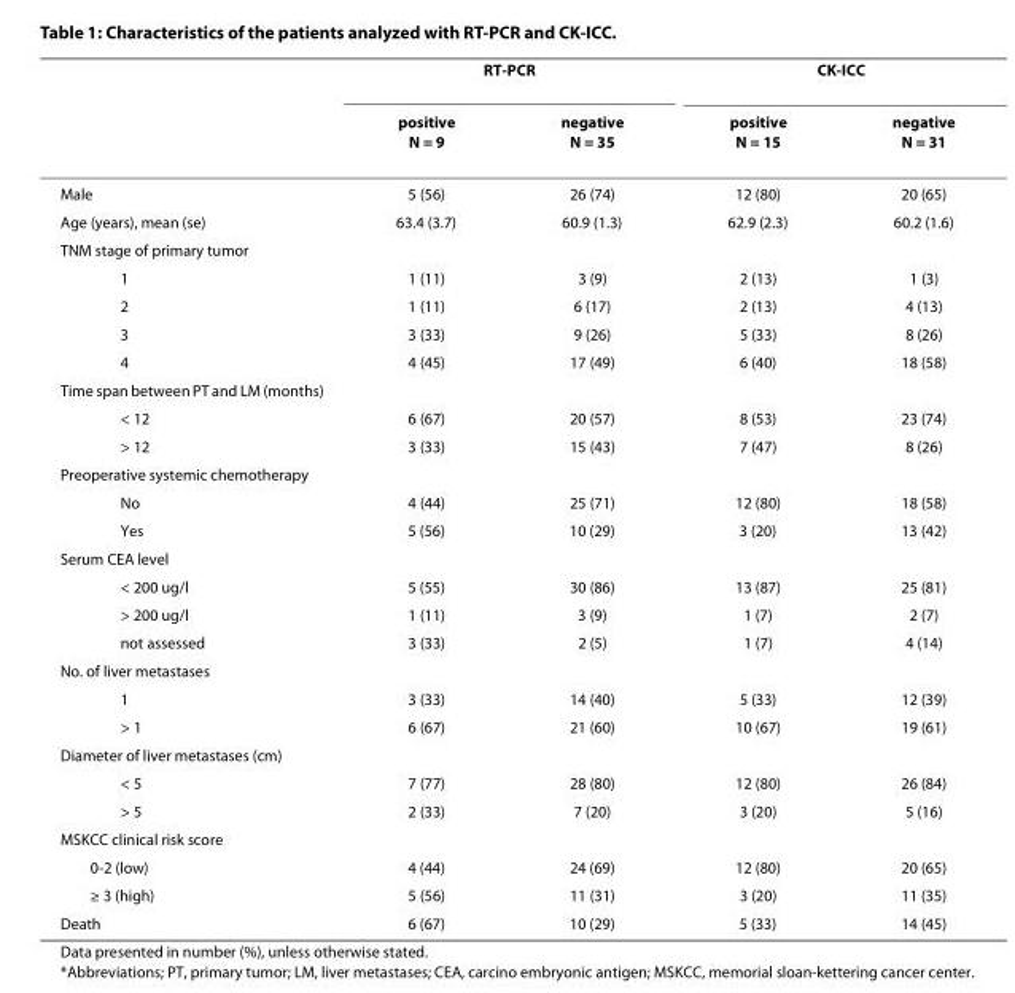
<table><thead><tr><td rowspan="2"></td><td colspan="2">RT-PCR</td><td colspan="2">CK-ICC</td></tr><tr><td>positive N = 9</td><td>negative N = 35</td><td>positive N = 15</td><td>negative N = 31</td></tr></thead><tbody><tr><td>Male</td><td>5 (56)</td><td>26 (74)</td><td>12 (80)</td><td>20 (65)</td></tr><tr><td>Age (years), mean (se)</td><td>63.4 (3.7)</td><td>60.9 (1.3)</td><td>62.9 (2.3)</td><td>60.2 (1.6)</td></tr><tr><td colspan="5">TNM stage of primary tumor</td></tr><tr><td>1</td><td>1 (11)</td><td>3 (9)</td><td>2 (13)</td><td>1 (3)</td></tr><tr><td>2</td><td>1 (11)</td><td>6 (17)</td><td>2 (13)</td><td>4 (13)</td></tr><tr><td>3</td><td>3 (33)</td><td>9 (26)</td><td>5 (33)</td><td>8 (26)</td></tr><tr><td>4</td><td>4 (45)</td><td>17 (49)</td><td>6 (40)</td><td>18 (58)</td></tr><tr><td colspan="5">Time span between PT and LM (months)</td></tr><tr><td>&lt; 12</td><td>6 (67)</td><td>20 (57)</td><td>8 (53)</td><td>23 (74)</td></tr><tr><td>&gt; 12</td><td>3 (33)</td><td>15 (43)</td><td>7 (47)</td><td>8 (26)</td></tr><tr><td colspan="5">Preoperative systemic chemotherapy</td></tr><tr><td>No</td><td>4 (44)</td><td>25 (71)</td><td>12 (80)</td><td>18 (58)</td></tr><tr><td>Yes</td><td>5 (56)</td><td>10 (29)</td><td>3 (20)</td><td>13 (42)</td></tr><tr><td colspan="5">Serum CEA level</td></tr><tr><td>&lt; 200 ug/l</td><td>5 (55)</td><td>30 (86)</td><td>13 (87)</td><td>25 (81)</td></tr><tr><td>&gt; 200 ug/l</td><td>1 (11)</td><td>3 (9)</td><td>1 (7)</td><td>2 (7)</td></tr><tr><td>not assessed</td><td>3 (33)</td><td>2 (5)</td><td>1 (7)</td><td>4 (14)</td></tr><tr><td colspan="5">No. of liver metastases</td></tr><tr><td>1</td><td>3 (33)</td><td>14 (40)</td><td>5 (33)</td><td>12 (39)</td></tr><tr><td>&gt; 1</td><td>6 (67)</td><td>21 (60)</td><td>10 (67)</td><td>19 (61)</td></tr><tr><td colspan="5">Diameter of liver metastases (cm)</td></tr><tr><td>&lt; 5</td><td>7 (77)</td><td>28 (80)</td><td>12 (80)</td><td>26 (84)</td></tr><tr><td>&gt; 5</td><td>2 (33)</td><td>7 (20)</td><td>3 (20)</td><td>5 (16)</td></tr><tr><td colspan="5">MSKCC clinical risk score</td></tr><tr><td>0-2 (low)</td><td>4 (44)</td><td>24 (69)</td><td>12 (80)</td><td>20 (65)</td></tr><tr><td>≥ 3 (high)</td><td>5 (56)</td><td>11 (31)</td><td>3 (20)</td><td>11 (35)</td></tr><tr><td>Death</td><td>6 (67)</td><td>10 (29)</td><td>5 (33)</td><td>14 (45)</td></tr></tbody></table>